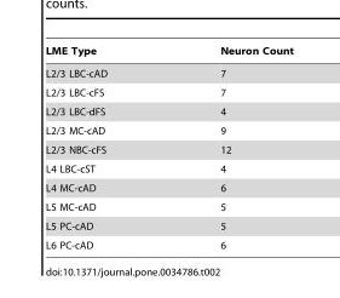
<table><thead><tr><td>LME Type</td><td>Neuron Count</td></tr></thead><tbody><tr><td>L2/3 LBC-cAD</td><td>7</td></tr><tr><td>L2/3 LBC-cFS</td><td>7</td></tr><tr><td>L2/3 LBC-dFS</td><td>4</td></tr><tr><td>L2/3 MC-cAD</td><td>9</td></tr><tr><td>L2/3 NBC-cFS</td><td>12</td></tr><tr><td>L4 LBC-cST</td><td>4</td></tr><tr><td>L4 MC-cAD</td><td>6</td></tr><tr><td>L5 MC-cAD</td><td>5</td></tr><tr><td>L5 PC-cAD</td><td>5</td></tr><tr><td>L6 PC-cAD</td><td>6</td></tr></tbody></table>